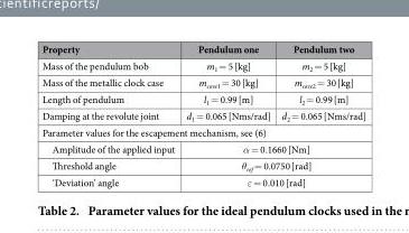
<table><thead><tr><td>Property</td><td>Pendulum one</td><td>Pendulum two</td></tr></thead><tbody><tr><td>Mass of the pendulum bob</td><td>m<sub>1</sub> = 5 [kg]</td><td>m<sub>2</sub> = 5 [kg]</td></tr><tr><td>Mass of the metallic clock case</td><td>m<sub>case1</sub> = 30 [kg]</td><td>m<sub>case2</sub> = 30 [kg]</td></tr><tr><td>Length of pendulum</td><td>l<sub>1</sub> = 0.99 [m]</td><td>l<sub>2</sub> = 0.99 [m]</td></tr><tr><td>Damping at the revolute joint</td><td>d<sub>1</sub> = 0.065 [Nms/rad]</td><td>d<sub>2</sub> = 0.065 [Nms/rad]</td></tr><tr><td colspan="3">Parameter values for the escapement mechanism, see (6)</td></tr><tr><td>Amplitude of the applied input</td><td colspan="2">α = 0.1660 [Nm]</td></tr><tr><td>Threshold angle</td><td colspan="2">θ<sub>ref</sub> = 0.0750 [rad]</td></tr><tr><td>‘Deviation’ angle</td><td colspan="2">ε = 0.010 [rad]</td></tr></tbody></table>